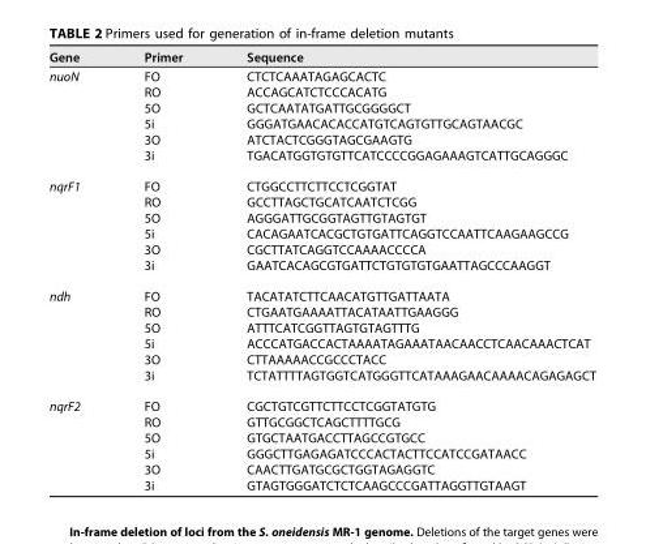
<table><thead><tr><td>Gene</td><td>Primer</td><td>Sequence</td></tr></thead><tbody><tr><td rowspan="6">nuoN</td><td>FO</td><td>CTCTCAAATAGAGCACTC</td></tr><tr><td>RO</td><td>ACCAGCATCTCCCACATG</td></tr><tr><td>5O</td><td>GCTCAATATGATTGCGGGGCT</td></tr><tr><td>5i</td><td>GGGATGAACACACCATGTCAGTGTTGCAGTAACGC</td></tr><tr><td>3O</td><td>ATCTACTCGGGTAGCGAAGTG</td></tr><tr><td>3i</td><td>TGACATGGTGTGTTCATCCCCGGAGAAAGTCATTGCAGGGC</td></tr><tr><td rowspan="6">nqrF1</td><td>FO</td><td>CTGGCCTTCTTCCTCGGTAT</td></tr><tr><td>RO</td><td>GCCTTAGCTGCATCAATCTCGG</td></tr><tr><td>5O</td><td>AGGGATTGCGGTAGTTGTAGTGT</td></tr><tr><td>5i</td><td>CACAGAATCACGCTGTGATTCAGGTCCAATTCAAGAAGCCG</td></tr><tr><td>3O</td><td>CGCTTATCAGGTCCAAAACCCCA</td></tr><tr><td>3i</td><td>GAATCACAGCGTGATTCTGTGTGTGAATTAGCCCAAGGT</td></tr><tr><td rowspan="6">ndh</td><td>FO</td><td>TACATATCTTCAACATGTTGATTAATA</td></tr><tr><td>RO</td><td>CTGAATGAAAATTACATAATTGAAGGG</td></tr><tr><td>5O</td><td>ATTTCATCGGTTAGTGTAGTTTG</td></tr><tr><td>5i</td><td>ACCCATGACCACTAAAATAGAAATAACAACCTCAACAAACTCAT</td></tr><tr><td>3O</td><td>CTTAAAAACCGCCCTACC</td></tr><tr><td>3i</td><td>TCTATTTTAGTGGTCATGGGTTCATAAAGAACAAAACAGAGAGCT</td></tr><tr><td rowspan="6">nqrF2</td><td>FO</td><td>CGCTGTCGTTCTTCCTCGGTATGTG</td></tr><tr><td>RO</td><td>GTTGCGGCTCAGCTTTTGCG</td></tr><tr><td>5O</td><td>GTGCTAATGACCTTAGCCGTGCC</td></tr><tr><td>5i</td><td>GGGCTTGAGAGATCCCACTACTTCCATCCGATAACC</td></tr><tr><td>3O</td><td>CAACTTGATGCGCTGGTAGAGGTC</td></tr><tr><td>3i</td><td>GTAGTGGGATCTCTCAAGCCCGATTAGGTTGTAAGT</td></tr></tbody></table>